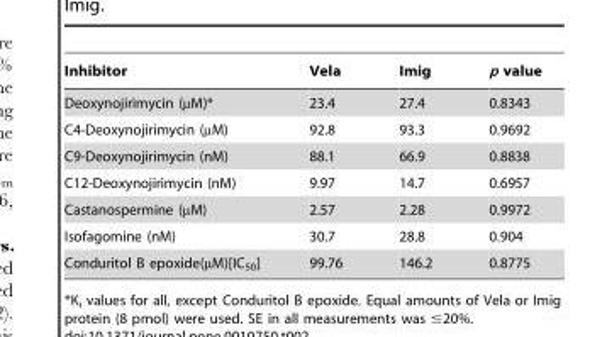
<table><thead><tr><td>Inhibitor</td><td>Vela</td><td>Imig</td><td>p value</td></tr></thead><tbody><tr><td>Deoxynojirimycin (µM)*</td><td>23.4</td><td>27.4</td><td>0.8343</td></tr><tr><td>C4-Deoxynojirimycin (µM)</td><td>92.8</td><td>93.3</td><td>0.9692</td></tr><tr><td>C9-Deoxynojirimycin (nM)</td><td>88.1</td><td>66.9</td><td>0.8838</td></tr><tr><td>C12-Deoxynojirimycin (nM)</td><td>9.97</td><td>14.7</td><td>0.6957</td></tr><tr><td>Castanospermine (µM)</td><td>2.57</td><td>2.28</td><td>0.9972</td></tr><tr><td>Isofagomine (nM)</td><td>30.7</td><td>28.8</td><td>0.904</td></tr><tr><td>Conduritol B epoxide(µM)[IC<sub>50</sub>]</td><td>99.76</td><td>146.2</td><td>0.8775</td></tr></tbody></table>